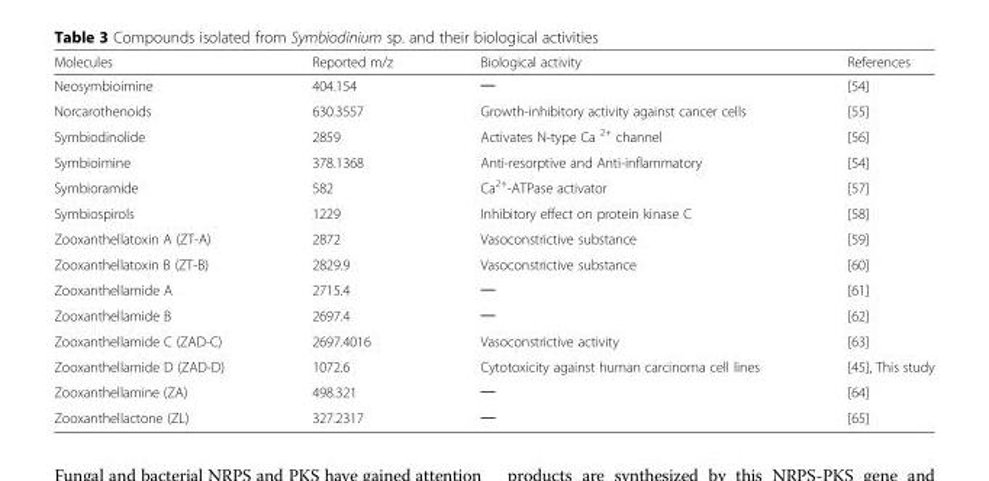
<table><thead><tr><td>Molecules</td><td>Reported m/z</td><td>Biological activity</td><td>References</td></tr></thead><tbody><tr><td>Neosymbioimine</td><td>404.154</td><td>─</td><td>[54]</td></tr><tr><td>Norcarothenoids</td><td>630.3557</td><td>Growth-inhibitory activity against cancer cells</td><td>[55]</td></tr><tr><td>Symbiodinolide</td><td>2859</td><td>Activates N-type Ca <sup>2+</sup> channel</td><td>[56]</td></tr><tr><td>Symbioimine</td><td>378.1368</td><td>Anti-resorptive and Anti-inflammatory</td><td>[54]</td></tr><tr><td>Symbioramide</td><td>582</td><td>Ca<sup>2+</sup>-ATPase activator</td><td>[57]</td></tr><tr><td>Symbiospirols</td><td>1229</td><td>Inhibitory effect on protein kinase C</td><td>[58]</td></tr><tr><td>Zooxanthellatoxin A (ZT-A)</td><td>2872</td><td>Vasoconstrictive substance</td><td>[59]</td></tr><tr><td>Zooxanthellatoxin B (ZT-B)</td><td>2829.9</td><td>Vasoconstrictive substance</td><td>[60]</td></tr><tr><td>Zooxanthellamide A</td><td>2715.4</td><td>─</td><td>[61]</td></tr><tr><td>Zooxanthellamide B</td><td>2697.4</td><td>─</td><td>[62]</td></tr><tr><td>Zooxanthellamide C (ZAD-C)</td><td>2697.4016</td><td>Vasoconstrictive activity</td><td>[63]</td></tr><tr><td>Zooxanthellamide D (ZAD-D)</td><td>1072.6</td><td>Cytotoxicity against human carcinoma cell lines</td><td>[45], This study</td></tr><tr><td>Zooxanthellamine (ZA)</td><td>498.321</td><td>─</td><td>[64]</td></tr><tr><td>Zooxanthellactone (ZL)</td><td>327.2317</td><td>─</td><td>[65]</td></tr></tbody></table>